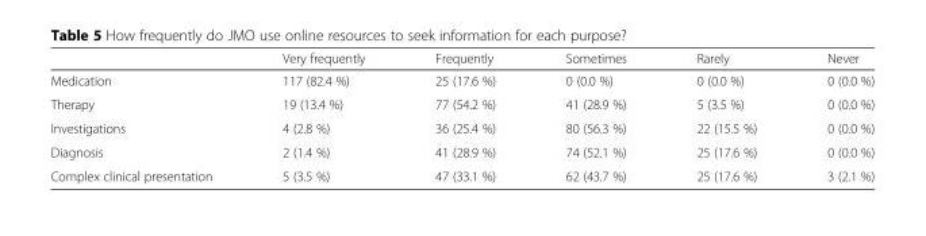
<table><thead><tr><td></td><td>Very frequently</td><td>Frequently</td><td>Sometimes</td><td>Rarely</td><td>Never</td></tr></thead><tbody><tr><td>Medication</td><td>117 (82.4 %)</td><td>25 (17.6 %)</td><td>0 (0.0 %)</td><td>0 (0.0 %)</td><td>0 (0.0 %)</td></tr><tr><td>Therapy</td><td>19 (13.4 %)</td><td>77 (54.2 %)</td><td>41 (28.9 %)</td><td>5 (3.5 %)</td><td>0 (0.0 %)</td></tr><tr><td>Investigations</td><td>4 (2.8 %)</td><td>36 (25.4 %)</td><td>80 (56.3 %)</td><td>22 (15.5 %)</td><td>0 (0.0 %)</td></tr><tr><td>Diagnosis</td><td>2 (1.4 %)</td><td>41 (28.9 %)</td><td>74 (52.1 %)</td><td>25 (17.6 %)</td><td>0 (0.0 %)</td></tr><tr><td>Complex clinical presentation</td><td>5 (3.5 %)</td><td>47 (33.1 %)</td><td>62 (43.7 %)</td><td>25 (17.6 %)</td><td>3 (2.1 %)</td></tr></tbody></table>